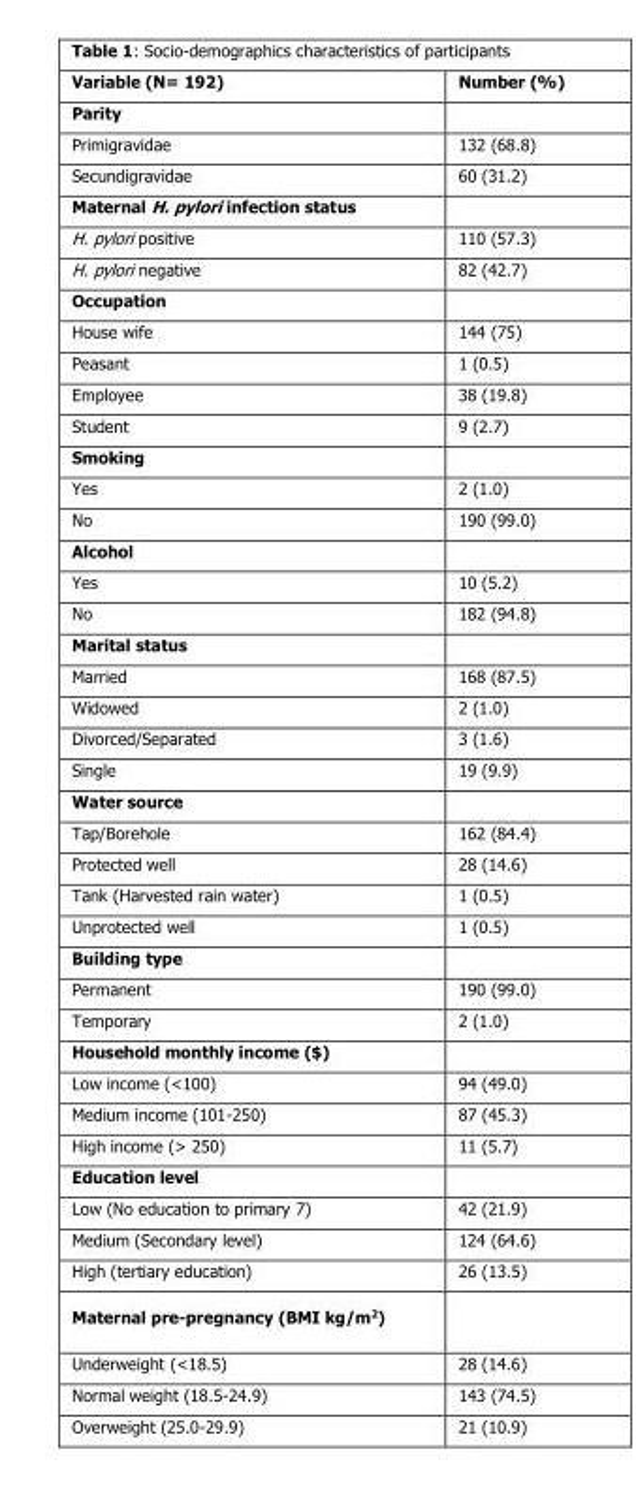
<table><thead><tr><td>Variable (N= 192)</td><td>Number (%)</td></tr></thead><tbody><tr><td colspan="2">Parity</td></tr><tr><td>Primigravidae</td><td>132 (68.8)</td></tr><tr><td>Secundigravidae</td><td>60 (31.2)</td></tr><tr><td colspan="2">Maternal H. pylori infection status</td></tr><tr><td>H. pylori positive</td><td>110 (57.3)</td></tr><tr><td>H. pylori negative</td><td>82 (42.7)</td></tr><tr><td colspan="2">Occupation</td></tr><tr><td>House wife</td><td>144 (75)</td></tr><tr><td>Peasant</td><td>1 (0.5)</td></tr><tr><td>Employee</td><td>38 (19.8)</td></tr><tr><td>Student</td><td>9 (2.7)</td></tr><tr><td colspan="2">Smoking</td></tr><tr><td>Yes</td><td>2 (1.0)</td></tr><tr><td>No</td><td>190 (99.0)</td></tr><tr><td colspan="2">Alcohol</td></tr><tr><td>Yes</td><td>10 (5.2)</td></tr><tr><td>No</td><td>182 (94.8)</td></tr><tr><td colspan="2">Marital status</td></tr><tr><td>Married</td><td>168 (87.5)</td></tr><tr><td>Widowed</td><td>2 (1.0)</td></tr><tr><td>Divorced/Separated</td><td>3 (1.6)</td></tr><tr><td>Single</td><td>19 (9.9)</td></tr><tr><td colspan="2">Water source</td></tr><tr><td>Tap/Borehole</td><td>162 (84.4)</td></tr><tr><td>Protected well</td><td>28 (14.6)</td></tr><tr><td>Tank (Harvested rain water)</td><td>1 (0.5)</td></tr><tr><td>Unprotected well</td><td>1 (0.5)</td></tr><tr><td colspan="2">Building type</td></tr><tr><td>Permanent</td><td>190 (99.0)</td></tr><tr><td>Temporary</td><td>2 (1.0)</td></tr><tr><td colspan="2">Household monthly income ($)</td></tr><tr><td>Low income (&lt;100)</td><td>94 (49.0)</td></tr><tr><td>Medium income (101-250)</td><td>87 (45.3)</td></tr><tr><td>High income (&gt; 250)</td><td>11 (5.7)</td></tr><tr><td colspan="2">Education level</td></tr><tr><td>Low (No education to primary 7)</td><td>42 (21.9)</td></tr><tr><td>Medium (Secondary level)</td><td>124 (64.6)</td></tr><tr><td>High (tertiary education)</td><td>26 (13.5)</td></tr><tr><td colspan="2">Maternal pre-pregnancy (BMI kg/m<sup>2</sup>)</td></tr><tr><td>Underweight (&lt;18.5)</td><td>28 (14.6)</td></tr><tr><td>Normal weight (18.5-24.9)</td><td>143 (74.5)</td></tr><tr><td>Overweight (25.0-29.9)</td><td>21 (10.9)</td></tr></tbody></table>